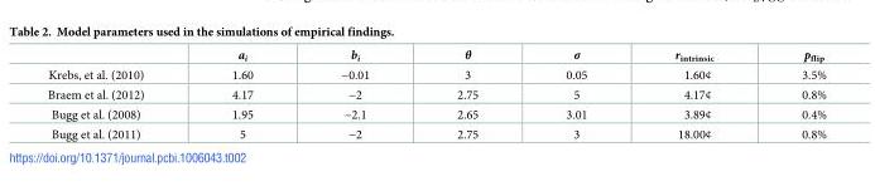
<table><thead><tr><td></td><td>a<sub>i</sub></td><td>b<sub>i</sub></td><td>θ</td><td>σ</td><td>r<sub>intrinsic</sub></td><td>p<sub>flip</sub></td></tr></thead><tbody><tr><td>Krebs, et al. (2010)</td><td>1.60</td><td>−0.01</td><td>3</td><td>0.05</td><td>1.60¢</td><td>3.5%</td></tr><tr><td>Braem et al. (2012)</td><td>4.17</td><td>−2</td><td>2.75</td><td>5</td><td>4.17¢</td><td>0.8%</td></tr><tr><td>Bugg et al. (2008)</td><td>1.95</td><td>−2.1</td><td>2.65</td><td>3.01</td><td>3.89¢</td><td>0.4%</td></tr><tr><td>Bugg et al. (2011)</td><td>5</td><td>−2</td><td>2.75</td><td>3</td><td>18.00¢</td><td>0.8%</td></tr></tbody></table>